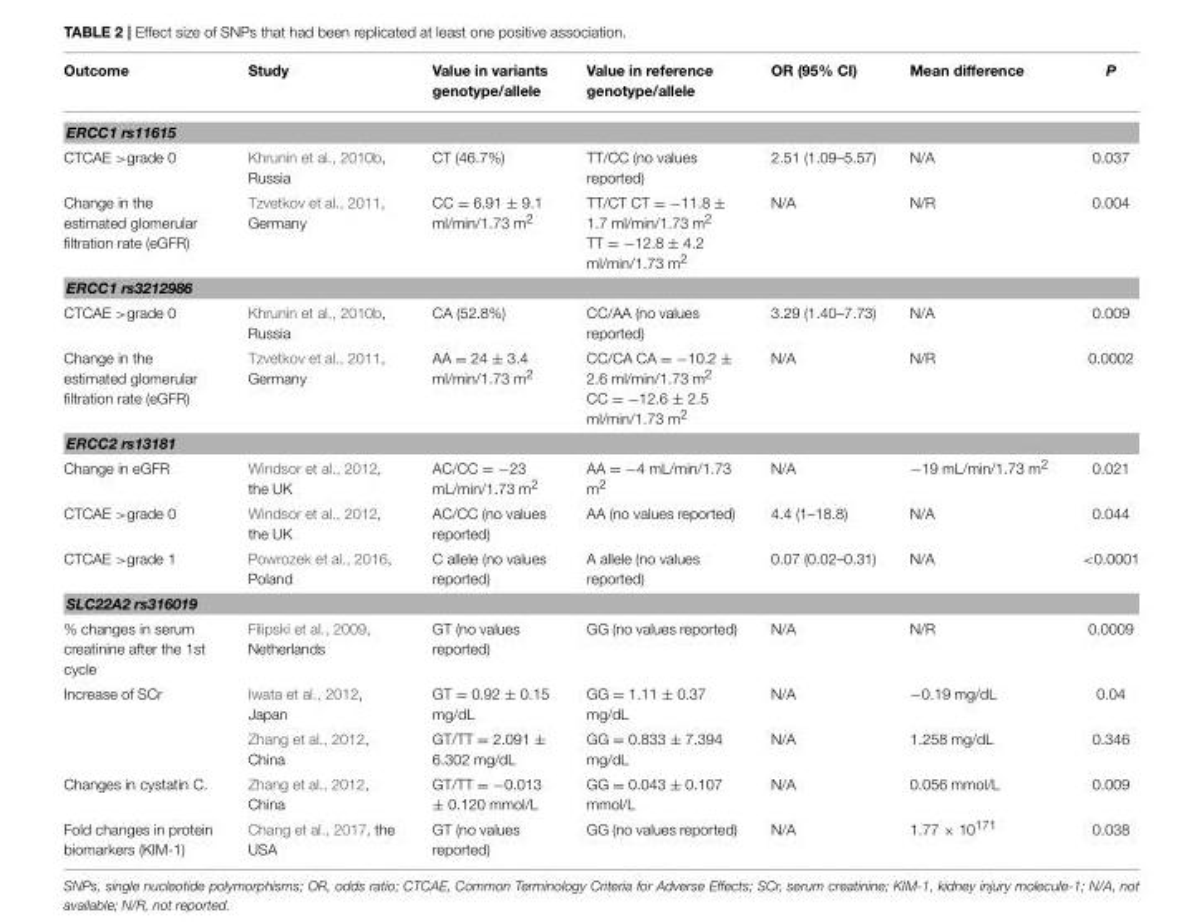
<table><thead><tr><td>Outcome</td><td>Study</td><td>Value in variants genotype/allele</td><td>Value in reference genotype/allele</td><td>OR (95% CI)</td><td>Mean difference</td><td>P</td></tr></thead><tbody><tr><td colspan="7">ERCC1 rs11615</td></tr><tr><td>CTCAE &gt;grade 0</td><td>Khrunin et al., 2010b, Russia</td><td>CT (46.7%)</td><td>TT/CC (no values reported)</td><td>2.51 (1.09–5.57)</td><td>N/A</td><td>0.037</td></tr><tr><td>Change in the estimated glomerular filtration rate (eGFR)</td><td>Tzvetkov et al., 2011, Germany</td><td>CC = 6.91 ± 9.1 ml/min/1.73 m<sup>2</sup></td><td>TT/CT CT = −11.8 ± 1.7 ml/min/1.73 m<sup>2</sup> TT = −12.8 ± 4.2 ml/min/1.73 m<sup>2</sup></td><td>N/A</td><td>N/R</td><td>0.004</td></tr><tr><td colspan="7">ERCC1 rs3212986</td></tr><tr><td>CTCAE &gt;grade 0</td><td>Khrunin et al., 2010b, Russia</td><td>CA (52.8%)</td><td>CC/AA (no values reported)</td><td>3.29 (1.40–7.73)</td><td>N/A</td><td>0.009</td></tr><tr><td>Change in the estimated glomerular filtration rate (eGFR)</td><td>Tzvetkov et al., 2011, Germany</td><td>AA = 24 ± 3.4 ml/min/1.73 m<sup>2</sup></td><td>CC/CA CA = −10.2 ± 2.6 ml/min/1.73 m<sup>2</sup> CC = −12.6 ± 2.5 ml/min/1.73 m<sup>2</sup></td><td>N/A</td><td>N/R</td><td>0.0002</td></tr><tr><td colspan="7">ERCC2 rs13181</td></tr><tr><td>Change in eGFR</td><td>Windsor et al., 2012, the UK</td><td>AC/CC = −23 mL/min/1.73 m<sup>2</sup></td><td>AA = −4 mL/min/1.73 m<sup>2</sup></td><td>N/A</td><td>−19 mL/min/1.73 m<sup>2</sup></td><td>0.021</td></tr><tr><td>CTCAE &gt;grade 0</td><td>Windsor et al., 2012, the UK</td><td>AC/CC (no values reported)</td><td>AA (no values reported)</td><td>4.4 (1–18.8)</td><td>N/A</td><td>0.044</td></tr><tr><td>CTCAE &gt;grade 1</td><td>Powrozek et al., 2016, Poland</td><td>C allele (no values reported)</td><td>A allele (no values reported)</td><td>0.07 (0.02–0.31)</td><td>N/A</td><td>&lt;0.0001</td></tr><tr><td colspan="7">SLC22A2 rs316019</td></tr><tr><td>% changes in serum creatinine after the 1st cycle</td><td>Filipski et al., 2009, Netherlands</td><td>GT (no values reported)</td><td>GG (no values reported)</td><td>N/A</td><td>N/R</td><td>0.0009</td></tr><tr><td rowspan="2">Increase of SCr</td><td>Iwata et al., 2012, Japan</td><td>GT = 0.92 ± 0.15 mg/dL</td><td>GG = 1.11 ± 0.37 mg/dL</td><td>N/A</td><td>−0.19 mg/dL</td><td>0.04</td></tr><tr><td>Zhang et al., 2012, China</td><td>GT/TT = 2.091 ± 6.302 mg/dL</td><td>GG = 0.833 ± 7.394 mg/dL</td><td>N/A</td><td>1.258 mg/dL</td><td>0.346</td></tr><tr><td>Changes in cystatin C.</td><td>Zhang et al., 2012, China</td><td>GT/TT = −0.013 ± 0.120 mmol/L</td><td>GG = 0.043 ± 0.107 mmol/L</td><td>N/A</td><td>0.056 mmol/L</td><td>0.009</td></tr><tr><td>Fold changes in protein biomarkers (KIM-1)</td><td>Chang et al., 2017, the USA</td><td>GT (no values reported)</td><td>GG (no values reported)</td><td>N/A</td><td>1.77 × 10<sup>171</sup></td><td>0.038</td></tr></tbody></table>